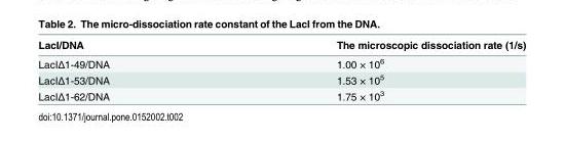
<table><thead><tr><td>LacI/DNA</td><td>The microscopic dissociation rate (1/s)</td></tr></thead><tbody><tr><td>LacIΔ1-49/DNA</td><td>1.00 × 10<sup>6</sup></td></tr><tr><td>LacIΔ1-53/DNA</td><td>1.53 × 10<sup>5</sup></td></tr><tr><td>LacIΔ1-62/DNA</td><td>1.75 × 10<sup>3</sup></td></tr></tbody></table>